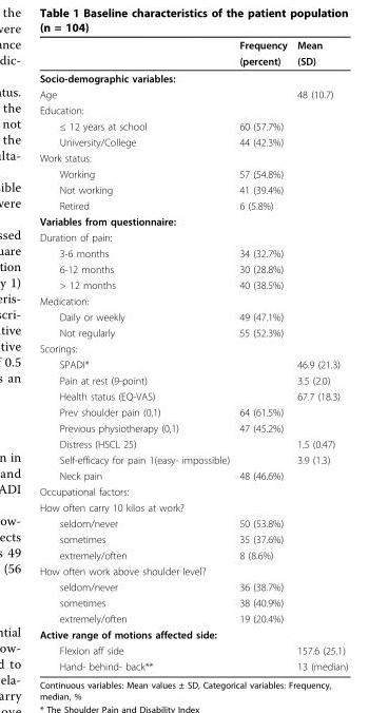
<table><thead><tr><td rowspan="2"></td><td rowspan="2">Frequency (percent)</td><td rowspan="2">Mean (SD)</td></tr><tr></tr></thead><tbody><tr><td colspan="3">Socio-demographic variables:</td></tr><tr><td>Age</td><td></td><td>48 (10.7)</td></tr><tr><td colspan="3">Education:</td></tr><tr><td>≤ 12 years at school</td><td>60 (57.7%)</td><td></td></tr><tr><td>University/College</td><td>44 (42.3%)</td><td></td></tr><tr><td colspan="3">Work status:</td></tr><tr><td>Working</td><td>57 (54.8%)</td><td></td></tr><tr><td>Not working</td><td>41 (39.4%)</td><td></td></tr><tr><td>Retired</td><td>6 (5.8%)</td><td></td></tr><tr><td colspan="3">Variables from questionnaire:</td></tr><tr><td colspan="3">Duration of pain:</td></tr><tr><td>3-6 months</td><td>34 (32.7%)</td><td></td></tr><tr><td>6-12 months</td><td>30 (28.8%)</td><td></td></tr><tr><td>&gt; 12 months</td><td>40 (38.5%)</td><td></td></tr><tr><td colspan="3">Medication:</td></tr><tr><td>Daily or weekly</td><td>49 (47.1%)</td><td></td></tr><tr><td>Not regularly</td><td>55 (52.3%)</td><td></td></tr><tr><td colspan="3">Scorings:</td></tr><tr><td>SPADI*</td><td></td><td>46.9 (21.3)</td></tr><tr><td>Pain at rest (9-point)</td><td></td><td>3.5 (2.0)</td></tr><tr><td>Health status (EQ-VAS)</td><td></td><td>67.7 (18.3)</td></tr><tr><td>Prev shoulder pain (0,1)</td><td>64 (61.5%)</td><td></td></tr><tr><td>Previous physiotherapy (0,1)</td><td>47 (45.2%)</td><td></td></tr><tr><td>Distress (HSCL 25)</td><td></td><td>1.5 (0.47)</td></tr><tr><td>Self-efficacy for pain 1(easy- impossible)</td><td></td><td>3.9 (1.3)</td></tr><tr><td>Neck pain</td><td>48 (46.6%)</td><td></td></tr><tr><td colspan="3">Occupational factors:</td></tr><tr><td colspan="3">How often carry 10 kilos at work?</td></tr><tr><td>seldom/never</td><td>50 (53.8%)</td><td></td></tr><tr><td>sometimes</td><td>35 (37.6%)</td><td></td></tr><tr><td>extremely/often</td><td>8 (8.6%)</td><td></td></tr><tr><td colspan="3">How often work above shoulder level?</td></tr><tr><td>seldom/never</td><td>36 (38.7%)</td><td></td></tr><tr><td>sometimes</td><td>38 (40.9%)</td><td></td></tr><tr><td>extremely/often</td><td>19 (20.4%)</td><td></td></tr><tr><td colspan="3">Active range of motions affected side:</td></tr><tr><td>Flexion aff side</td><td></td><td>157.6 (25.1)</td></tr><tr><td>Hand- behind- back**</td><td></td><td>13 (median)</td></tr></tbody></table>